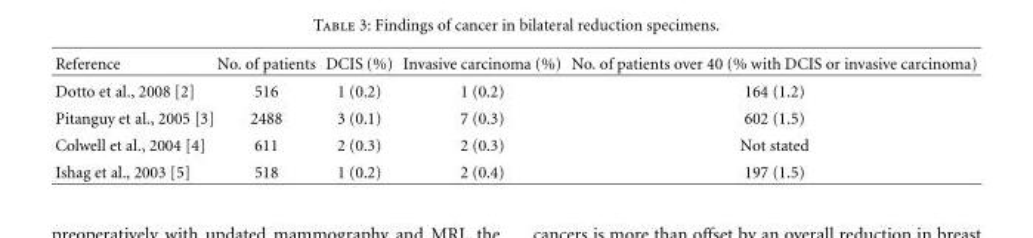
<table><thead><tr><td>Reference</td><td>No. of patients</td><td>DCIS (%)</td><td>Invasive carcinoma (%)</td><td>No. of patients over 40 (% with DCIS or invasive carcinoma)</td></tr></thead><tbody><tr><td>Dotto et al., 2008 [2]</td><td>516</td><td>1 (0.2)</td><td>1 (0.2)</td><td>164 (1.2)</td></tr><tr><td>Pitanguy et al., 2005 [3]</td><td>2488</td><td>3 (0.1)</td><td>7 (0.3)</td><td>602 (1.5)</td></tr><tr><td>Colwell et al., 2004 [4]</td><td>611</td><td>2 (0.3)</td><td>2 (0.3)</td><td>Not stated</td></tr><tr><td>Ishag et al., 2003 [5]</td><td>518</td><td>1 (0.2)</td><td>2 (0.4)</td><td>197 (1.5)</td></tr></tbody></table>